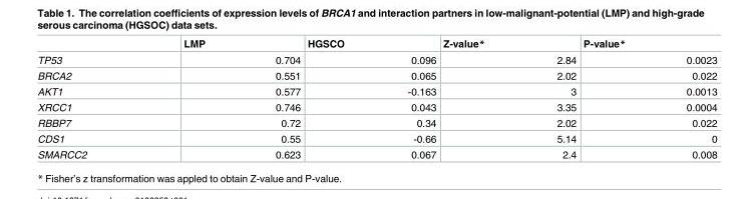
<table><thead><tr><td></td><td>LMP</td><td>HGSCO</td><td>Z-value*</td><td>P-value*</td></tr></thead><tbody><tr><td>TP53</td><td>0.704</td><td>0.096</td><td>2.84</td><td>0.0023</td></tr><tr><td>BRCA2</td><td>0.551</td><td>0.065</td><td>2.02</td><td>0.022</td></tr><tr><td>AKT1</td><td>0.577</td><td>-0.163</td><td>3</td><td>0.0013</td></tr><tr><td>XRCC1</td><td>0.746</td><td>0.043</td><td>3.35</td><td>0.0004</td></tr><tr><td>RBBP7</td><td>0.72</td><td>0.34</td><td>2.02</td><td>0.022</td></tr><tr><td>CDS1</td><td>0.55</td><td>-0.66</td><td>5.14</td><td>0</td></tr><tr><td>SMARCC2</td><td>0.623</td><td>0.067</td><td>2.4</td><td>0.008</td></tr></tbody></table>